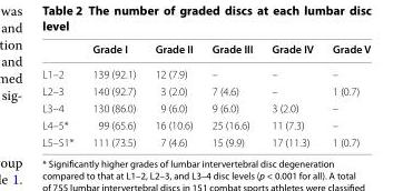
<table><thead><tr><td></td><td>Grade I</td><td>Grade II</td><td>Grade III</td><td>Grade IV</td><td>Grade V</td></tr></thead><tbody><tr><td>L1–2</td><td>139 (92.1)</td><td>12 (7.9)</td><td>–</td><td>–</td><td>–</td></tr><tr><td>L2–3</td><td>140 (92.7)</td><td>3 (2.0)</td><td>7 (4.6)</td><td>–</td><td>1 (0.7)</td></tr><tr><td>L3–4</td><td>130 (86.0)</td><td>9 (6.0)</td><td>9 (6.0)</td><td>3 (2.0)</td><td>–</td></tr><tr><td>L4–5*</td><td>99 (65.6)</td><td>16 (10.6)</td><td>25 (16.6)</td><td>11 (7.3)</td><td>–</td></tr><tr><td>L5–S1*</td><td>111 (73.5)</td><td>7 (4.6)</td><td>15 (9.9)</td><td>17 (11.3)</td><td>1 (0.7)</td></tr></tbody></table>